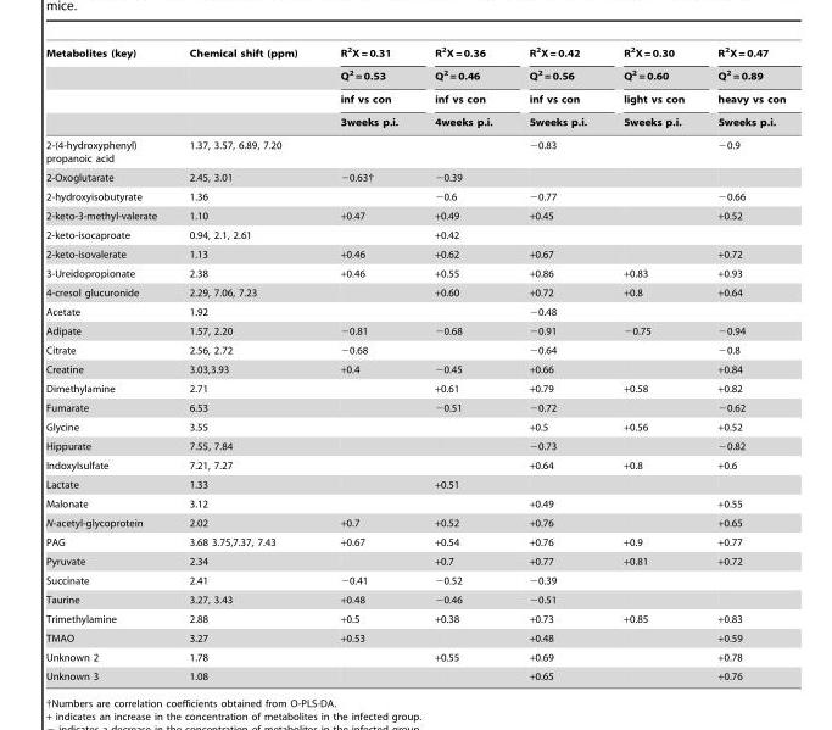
<table><thead><tr><td rowspan="4">Metabolites (key)</td><td rowspan="4">Chemical shift (ppm)</td><td rowspan="4">R<sup>2</sup>X = 0.31 Q<sup>2</sup> = 0.53 inf vs con 3weeks p.i.</td><td rowspan="4">R<sup>2</sup>X = 0.36 Q<sup>2</sup> = 0.46 inf vs con 4weeks p.i.</td><td rowspan="4">R<sup>2</sup>X = 0.42 Q<sup>2</sup> = 0.56 inf vs con 5weeks p.i.</td><td rowspan="4">R<sup>2</sup>X = 0.30 Q<sup>2</sup> = 0.60 light vs con 5weeks p.i.</td><td rowspan="4">R<sup>2</sup>X = 0.47 Q<sup>2</sup> = 0.89 heavy vs con 5weeks p.i.</td></tr><tr></tr><tr></tr><tr></tr></thead><tbody><tr><td>2-(4-hydroxyphenyl) propanoic acid</td><td>1.37, 3.57, 6.89, 7.20</td><td></td><td></td><td>−0.83</td><td></td><td>−0.9</td></tr><tr><td>2-Oxoglutarate</td><td>2.45, 3.01</td><td>−0.63†</td><td>−0.39</td><td></td><td></td><td></td></tr><tr><td>2-hydroxyisobutyrate</td><td>1.36</td><td></td><td>−0.6</td><td>−0.77</td><td></td><td>−0.66</td></tr><tr><td>2-keto-3-methyl-valerate</td><td>1.10</td><td>+0.47</td><td>+0.49</td><td>+0.45</td><td></td><td>+0.52</td></tr><tr><td>2-keto-isocaproate</td><td>0.94, 2.1, 2.61</td><td></td><td>+0.42</td><td></td><td></td><td></td></tr><tr><td>2-keto-isovalerate</td><td>1.13</td><td>+0.46</td><td>+0.62</td><td>+0.67</td><td></td><td>+0.72</td></tr><tr><td>3-Ureidopropionate</td><td>2.38</td><td>+0.46</td><td>+0.55</td><td>+0.86</td><td>+0.83</td><td>+0.93</td></tr><tr><td>4-cresol glucuronide</td><td>2.29, 7.06, 7.23</td><td></td><td>+0.60</td><td>+0.72</td><td>+0.8</td><td>+0.64</td></tr><tr><td>Acetate</td><td>1.92</td><td></td><td></td><td>−0.48</td><td></td><td></td></tr><tr><td>Adipate</td><td>1.57, 2.20</td><td>−0.81</td><td>−0.68</td><td>−0.91</td><td>−0.75</td><td>−0.94</td></tr><tr><td>Citrate</td><td>2.56, 2.72</td><td>−0.68</td><td></td><td>−0.64</td><td></td><td>−0.8</td></tr><tr><td>Creatine</td><td>3.03,3.93</td><td>+0.4</td><td>−0.45</td><td>+0.66</td><td></td><td>+0.84</td></tr><tr><td>Dimethylamine</td><td>2.71</td><td></td><td>+0.61</td><td>+0.79</td><td>+0.58</td><td>+0.82</td></tr><tr><td>Fumarate</td><td>6.53</td><td></td><td>−0.51</td><td>−0.72</td><td></td><td>−0.62</td></tr><tr><td>Glycine</td><td>3.55</td><td></td><td></td><td>+0.5</td><td>+0.56</td><td>+0.52</td></tr><tr><td>Hippurate</td><td>7.55, 7.84</td><td></td><td></td><td>−0.73</td><td></td><td>−0.82</td></tr><tr><td>Indoxylsulfate</td><td>7.21, 7.27</td><td></td><td></td><td>+0.64</td><td>+0.8</td><td>+0.6</td></tr><tr><td>Lactate</td><td>1.33</td><td></td><td>+0.51</td><td></td><td></td><td></td></tr><tr><td>Malonate</td><td>3.12</td><td></td><td></td><td>+0.49</td><td></td><td>+0.55</td></tr><tr><td>N-acetyl-glycoprotein</td><td>2.02</td><td>+0.7</td><td>+0.52</td><td>+0.76</td><td></td><td>+0.65</td></tr><tr><td>PAG</td><td>3.68 3.75,7.37, 7.43</td><td>+0.67</td><td>+0.54</td><td>+0.76</td><td>+0.9</td><td>+0.77</td></tr><tr><td>Pyruvate</td><td>2.34</td><td></td><td>+0.7</td><td>+0.77</td><td>+0.81</td><td>+0.72</td></tr><tr><td>Succinate</td><td>2.41</td><td>−0.41</td><td>−0.52</td><td>−0.39</td><td></td><td></td></tr><tr><td>Taurine</td><td>3.27, 3.43</td><td>+0.48</td><td>−0.46</td><td>−0.51</td><td></td><td></td></tr><tr><td>Trimethylamine</td><td>2.88</td><td>+0.5</td><td>+0.38</td><td>+0.73</td><td>+0.85</td><td>+0.83</td></tr><tr><td>TMAO</td><td>3.27</td><td>+0.53</td><td></td><td>+0.48</td><td></td><td>+0.59</td></tr><tr><td>Unknown 2</td><td>1.78</td><td></td><td>+0.55</td><td>+0.69</td><td></td><td>+0.78</td></tr><tr><td>Unknown 3</td><td>1.08</td><td></td><td></td><td>+0.65</td><td></td><td>+0.76</td></tr></tbody></table>